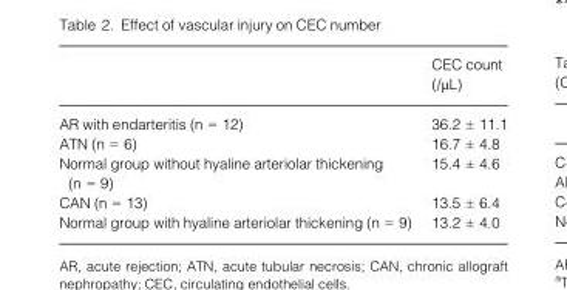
<table><thead><tr><td></td><td>CEC count (/μL)</td></tr></thead><tbody><tr><td>AR with endarteritis (n = 12)</td><td>36.2 ± 11.1</td></tr><tr><td>ATN (n = 6)</td><td>16.7 ± 4.8</td></tr><tr><td>Normal group without hyaline arteriolar thickening (n = 9)</td><td>15.4 ± 4.6</td></tr><tr><td>CAN (n = 13)</td><td>13.5 ± 6.4</td></tr><tr><td>Normal group with hyaline arteriolar thickening (n = 9)</td><td>13.2 ± 4.0</td></tr></tbody></table>